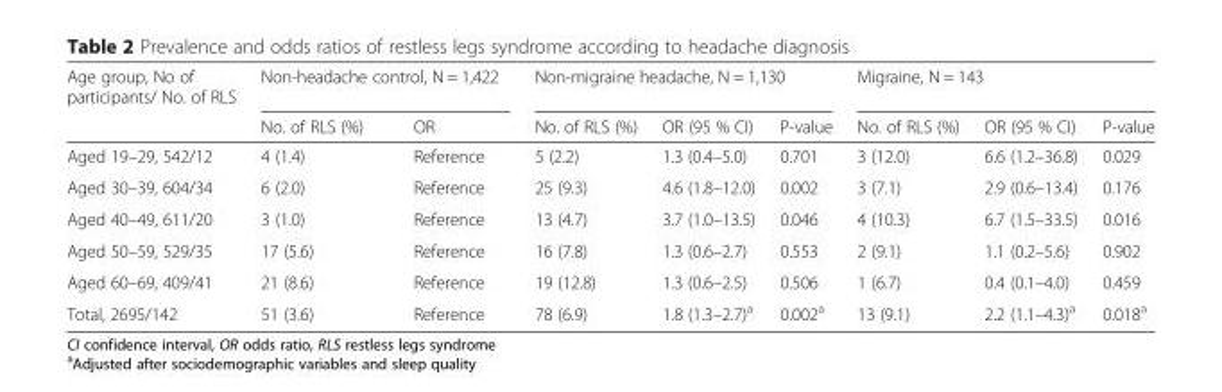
<table><thead><tr><td rowspan="2">Age group, No of participants/ No. of RLS</td><td colspan="2">Non-headache control, N = 1,422</td><td colspan="3">Non-migraine headache, N = 1,130</td><td colspan="3">Migraine, N = 143</td></tr><tr><td>No. of RLS (%)</td><td>OR</td><td>No. of RLS (%)</td><td>OR (95 % CI)</td><td>P-value</td><td>No. of RLS (%)</td><td>OR (95 % CI)</td><td>P-value</td></tr></thead><tbody><tr><td>Aged 19–29, 542/12</td><td>4 (1.4)</td><td>Reference</td><td>5 (2.2)</td><td>1.3 (0.4–5.0)</td><td>0.701</td><td>3 (12.0)</td><td>6.6 (1.2–36.8)</td><td>0.029</td></tr><tr><td>Aged 30–39, 604/34</td><td>6 (2.0)</td><td>Reference</td><td>25 (9.3)</td><td>4.6 (1.8–12.0)</td><td>0.002</td><td>3 (7.1)</td><td>2.9 (0.6–13.4)</td><td>0.176</td></tr><tr><td>Aged 40–49, 611/20</td><td>3 (1.0)</td><td>Reference</td><td>13 (4.7)</td><td>3.7 (1.0–13.5)</td><td>0.046</td><td>4 (10.3)</td><td>6.7 (1.5–33.5)</td><td>0.016</td></tr><tr><td>Aged 50–59, 529/35</td><td>17 (5.6)</td><td>Reference</td><td>16 (7.8)</td><td>1.3 (0.6–2.7)</td><td>0.553</td><td>2 (9.1)</td><td>1.1 (0.2–5.6)</td><td>0.902</td></tr><tr><td>Aged 60–69, 409/41</td><td>21 (8.6)</td><td>Reference</td><td>19 (12.8)</td><td>1.3 (0.6–2.5)</td><td>0.506</td><td>1 (6.7)</td><td>0.4 (0.1–4.0)</td><td>0.459</td></tr><tr><td>Total, 2695/142</td><td>51 (3.6)</td><td>Reference</td><td>78 (6.9)</td><td>1.8 (1.3–2.7)<sup>a</sup></td><td>0.002<sup>a</sup></td><td>13 (9.1)</td><td>2.2 (1.1–4.3)<sup>a</sup></td><td>0.018<sup>a</sup></td></tr></tbody></table>